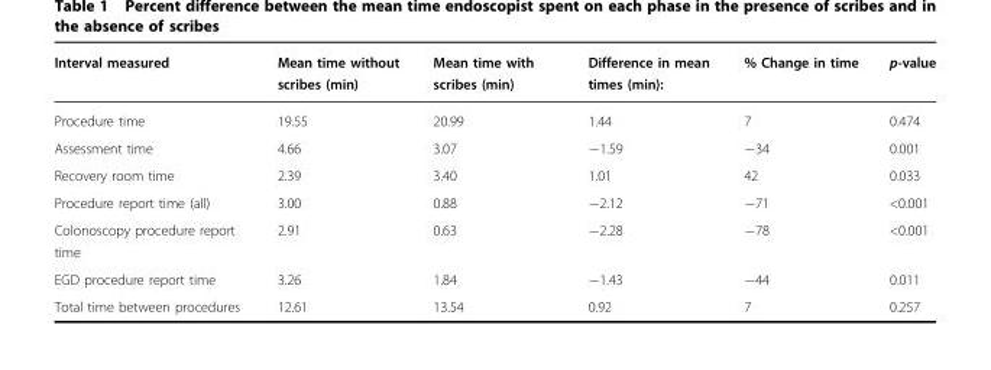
<table><thead><tr><td>Interval measured</td><td>Mean time without scribes (min)</td><td>Mean time with scribes (min)</td><td>Difference in mean times (min):</td><td>% Change in time</td><td>p-value</td></tr></thead><tbody><tr><td>Procedure time</td><td>19.55</td><td>20.99</td><td>1.44</td><td>7</td><td>0.474</td></tr><tr><td>Assessment time</td><td>4.66</td><td>3.07</td><td>−1.59</td><td>−34</td><td>0.001</td></tr><tr><td>Recovery room time</td><td>2.39</td><td>3.40</td><td>1.01</td><td>42</td><td>0.033</td></tr><tr><td>Procedure report time (all)</td><td>3.00</td><td>0.88</td><td>−2.12</td><td>−71</td><td>&lt;0.001</td></tr><tr><td>Colonoscopy procedure report time</td><td>2.91</td><td>0.63</td><td>−2.28</td><td>−78</td><td>&lt;0.001</td></tr><tr><td>EGD procedure report time</td><td>3.26</td><td>1.84</td><td>−1.43</td><td>−44</td><td>0.011</td></tr><tr><td>Total time between procedures</td><td>12.61</td><td>13.54</td><td>0.92</td><td>7</td><td>0.257</td></tr></tbody></table>